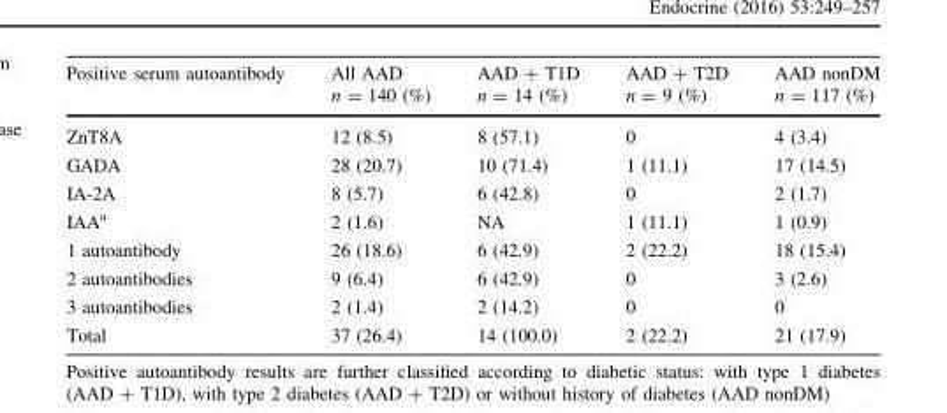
<table><thead><tr><td>Positive serum autoantibody</td><td>All AAD n = 140 (%)</td><td>AAD + T1D n = 14 (%)</td><td>AAD + T2D n = 9 (%)</td><td>AAD nonDM n = 117 (%)</td></tr></thead><tbody><tr><td>ZnT8A</td><td>12 (8.5)</td><td>8 (57.1)</td><td>0</td><td>4 (3.4)</td></tr><tr><td>GADA</td><td>28 (20.7)</td><td>10 (71.4)</td><td>1 (11.1)</td><td>17 (14.5)</td></tr><tr><td>IA-2A</td><td>8 (5.7)</td><td>6 (42.8)</td><td>0</td><td>2 (1.7)</td></tr><tr><td>IAA<sup>a</sup></td><td>2 (1.6)</td><td>NA</td><td>1 (11.1)</td><td>1 (0.9)</td></tr><tr><td>1 autoantibody</td><td>26 (18.6)</td><td>6 (42.9)</td><td>2 (22.2)</td><td>18 (15.4)</td></tr><tr><td>2 autoantibodies</td><td>9 (6.4)</td><td>6 (42.9)</td><td>0</td><td>3 (2.6)</td></tr><tr><td>3 autoantibodies</td><td>2 (1.4)</td><td>2 (14.2)</td><td>0</td><td>0</td></tr><tr><td>Total</td><td>37 (26.4)</td><td>14 (100.0)</td><td>2 (22.2)</td><td>21 (17.9)</td></tr></tbody></table>